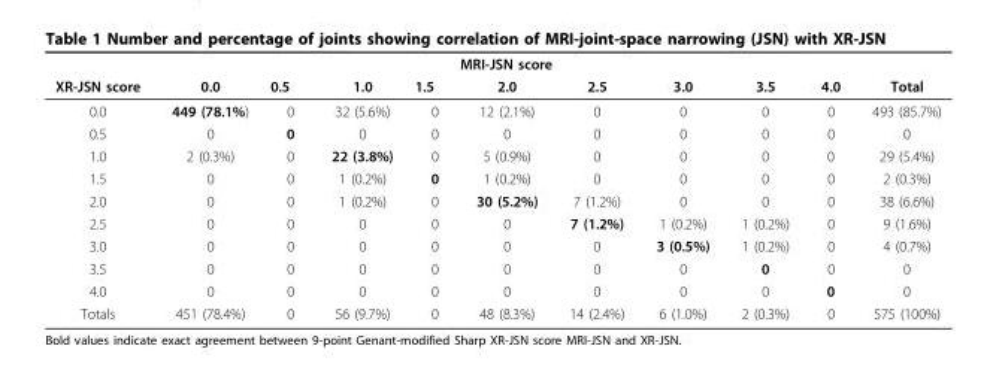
<table><thead><tr><td rowspan="2">XR-JSN score</td><td colspan="9">MRI-JSN score</td><td rowspan="2">Total</td></tr><tr><td>0.0</td><td>0.5</td><td>1.0</td><td>1.5</td><td>2.0</td><td>2.5</td><td>3.0</td><td>3.5</td><td>4.0</td></tr></thead><tbody><tr><td>0.0</td><td>449 (78.1%)</td><td>0</td><td>32 (5.6%)</td><td>0</td><td>12 (2.1%)</td><td>0</td><td>0</td><td>0</td><td>0</td><td>493 (85.7%)</td></tr><tr><td>0.5</td><td>0</td><td>0</td><td>0</td><td>0</td><td>0</td><td>0</td><td>0</td><td>0</td><td>0</td><td>0</td></tr><tr><td>1.0</td><td>2 (0.3%)</td><td>0</td><td>22 (3.8%)</td><td>0</td><td>5 (0.9%)</td><td>0</td><td>0</td><td>0</td><td>0</td><td>29 (5.4%)</td></tr><tr><td>1.5</td><td>0</td><td>0</td><td>1 (0.2%)</td><td>0</td><td>1 (0.2%)</td><td>0</td><td>0</td><td>0</td><td>0</td><td>2 (0.3%)</td></tr><tr><td>2.0</td><td>0</td><td>0</td><td>1 (0.2%)</td><td>0</td><td>30 (5.2%)</td><td>7 (1.2%)</td><td>0</td><td>0</td><td>0</td><td>38 (6.6%)</td></tr><tr><td>2.5</td><td>0</td><td>0</td><td>0</td><td>0</td><td>0</td><td>7 (1.2%)</td><td>1 (0.2%)</td><td>1 (0.2%)</td><td>0</td><td>9 (1.6%)</td></tr><tr><td>3.0</td><td>0</td><td>0</td><td>0</td><td>0</td><td>0</td><td>0</td><td>3 (0.5%)</td><td>1 (0.2%)</td><td>0</td><td>4 (0.7%)</td></tr><tr><td>3.5</td><td>0</td><td>0</td><td>0</td><td>0</td><td>0</td><td>0</td><td>0</td><td>0</td><td>0</td><td>0</td></tr><tr><td>4.0</td><td>0</td><td>0</td><td>0</td><td>0</td><td>0</td><td>0</td><td>0</td><td>0</td><td>0</td><td>0</td></tr><tr><td>Totals</td><td>451 (78.4%)</td><td>0</td><td>56 (9.7%)</td><td>0</td><td>48 (8.3%)</td><td>14 (2.4%)</td><td>6 (1.0%)</td><td>2 (0.3%)</td><td>0</td><td>575 (100%)</td></tr></tbody></table>